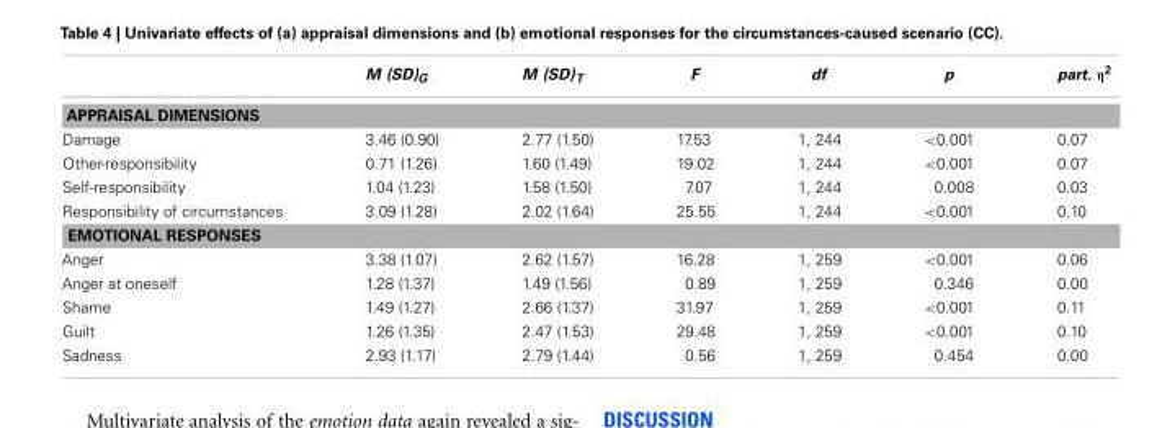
<table><thead><tr><td></td><td>M (SD)<sub>G</sub></td><td>M (SD)<sub>T</sub></td><td>F</td><td>df</td><td>p</td><td>part. η<sup>2</sup></td></tr></thead><tbody><tr><td colspan="7">APPRAISAL DIMENSIONS</td></tr><tr><td>Damage</td><td>3.46 (0.90)</td><td>2.77 (1.50)</td><td>17.53</td><td>1, 244</td><td>&lt;0.001</td><td>0.07</td></tr><tr><td>Other-responsibility</td><td>0.71 (1.26)</td><td>1.60 (1.49)</td><td>19.02</td><td>1, 244</td><td>&lt;0.001</td><td>0.07</td></tr><tr><td>Self-responsibility</td><td>1.04 (1.23)</td><td>1.58 (1.50)</td><td>7.07</td><td>1, 244</td><td>0.008</td><td>0.03</td></tr><tr><td>Responsibility of circumstances</td><td>3.09 (1.28)</td><td>2.02 (1.64)</td><td>25.55</td><td>1, 244</td><td>&lt;0.001</td><td>0.10</td></tr><tr><td colspan="7">EMOTIONAL RESPONSES</td></tr><tr><td>Anger</td><td>3.38 (1.07)</td><td>2.62 (1.57)</td><td>16.28</td><td>1, 259</td><td>&lt;0.001</td><td>0.06</td></tr><tr><td>Anger at oneself</td><td>1.28 (1.37)</td><td>1.49 (1.56)</td><td>0.89</td><td>1, 259</td><td>0.346</td><td>0.00</td></tr><tr><td>Shame</td><td>1.49 (1.27)</td><td>2.66 (1.37)</td><td>31.97</td><td>1, 259</td><td>&lt;0.001</td><td>0.11</td></tr><tr><td>Guilt</td><td>1.26 (1.35)</td><td>2.47 (1.53)</td><td>29.48</td><td>1, 259</td><td>&lt;0.001</td><td>0.10</td></tr><tr><td>Sadness</td><td>2.93 (1.17)</td><td>2.79 (1.44)</td><td>0.56</td><td>1, 259</td><td>0.454</td><td>0.00</td></tr></tbody></table>